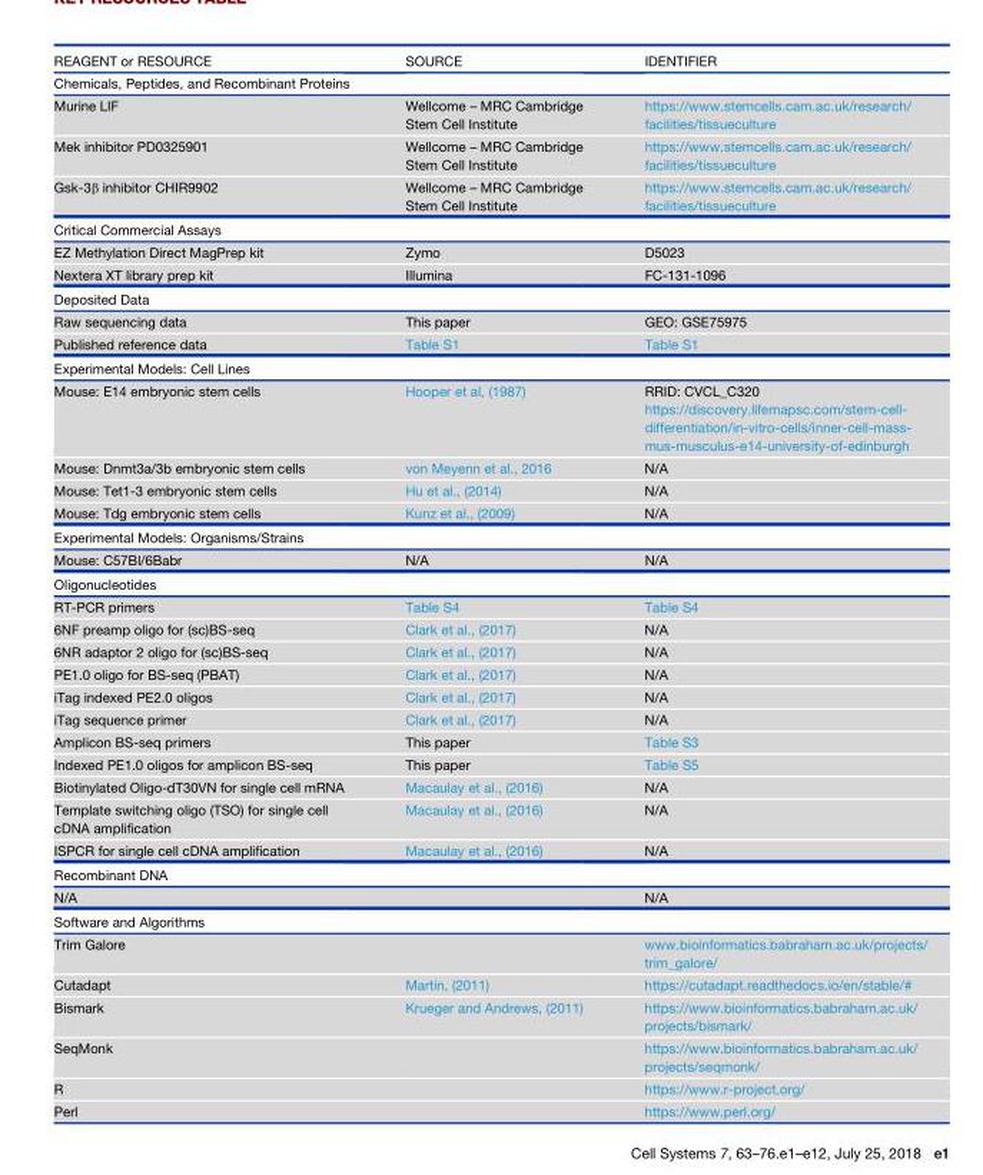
<table><thead><tr><td>REAGENT or RESOURCE</td><td>SOURCE</td><td>IDENTIFIER</td></tr></thead><tbody><tr><td colspan="3">Chemicals, Peptides, and Recombinant Proteins</td></tr><tr><td>Murine LIF</td><td>Wellcome – MRC Cambridge Stem Cell Institute</td><td>https://www.stemcells.cam.ac.uk/research/ facilities/tissueculture</td></tr><tr><td>Mek inhibitor PD0325901</td><td>Wellcome – MRC Cambridge Stem Cell Institute</td><td>https://www.stemcells.cam.ac.uk/research/ facilities/tissueculture</td></tr><tr><td>Gsk-3β inhibitor CHIR9902</td><td>Wellcome – MRC Cambridge Stem Cell Institute</td><td>https://www.stemcells.cam.ac.uk/research/ facilities/tissueculture</td></tr><tr><td colspan="3">Critical Commercial Assays</td></tr><tr><td>EZ Methylation Direct MagPrep kit</td><td>Zymo</td><td>D5023</td></tr><tr><td>Nextera XT library prep kit</td><td>Illumina</td><td>FC-131-1096</td></tr><tr><td colspan="3">Deposited Data</td></tr><tr><td>Raw sequencing data</td><td>This paper</td><td>GEO: GSE75975</td></tr><tr><td>Published reference data</td><td>Table S1</td><td>Table S1</td></tr><tr><td colspan="3">Experimental Models: Cell Lines</td></tr><tr><td>Mouse: E14 embryonic stem cells</td><td>Hooper et al, (1987)</td><td>RRID: CVCL_C320 https://discovery.lifemapsc.com/stem-cell- differentiation/in-vitro-cells/inner-cell-mass- mus-musculus-e14-university-of-edinburgh</td></tr><tr><td>Mouse: Dnmt3a/3b embryonic stem cells</td><td>von Meyenn et al., 2016</td><td>N/A</td></tr><tr><td>Mouse: Tet1-3 embryonic stem cells</td><td>Hu et al., (2014)</td><td>N/A</td></tr><tr><td>Mouse: Tdg embryonic stem cells</td><td>Kunz et al., (2009)</td><td>N/A</td></tr><tr><td colspan="3">Experimental Models: Organisms/Strains</td></tr><tr><td>Mouse: C57Bl/6Babr</td><td>N/A</td><td>N/A</td></tr><tr><td colspan="3">Oligonucleotides</td></tr><tr><td>RT-PCR primers</td><td>Table S4</td><td>Table S4</td></tr><tr><td>6NF preamp oligo for (sc)BS-seq</td><td>Clark et al., (2017)</td><td>N/A</td></tr><tr><td>6NR adaptor 2 oligo for (sc)BS-seq</td><td>Clark et al., (2017)</td><td>N/A</td></tr><tr><td>PE1.0 oligo for BS-seq (PBAT)</td><td>Clark et al., (2017)</td><td>N/A</td></tr><tr><td>iTag indexed PE2.0 oligos</td><td>Clark et al., (2017)</td><td>N/A</td></tr><tr><td>iTag sequence primer</td><td>Clark et al., (2017)</td><td>N/A</td></tr><tr><td>Amplicon BS-seq primers</td><td>This paper</td><td>Table S3</td></tr><tr><td>Indexed PE1.0 oligos for amplicon BS-seq</td><td>This paper</td><td>Table S5</td></tr><tr><td>Biotinylated Oligo-dT30VN for single cell mRNA</td><td>Macaulay et al., (2016)</td><td>N/A</td></tr><tr><td>Template switching oligo (TSO) for single cell cDNA amplification</td><td>Macaulay et al., (2016)</td><td>N/A</td></tr><tr><td>ISPCR for single cell cDNA amplification</td><td>Macaulay et al., (2016)</td><td>N/A</td></tr><tr><td colspan="3">Recombinant DNA</td></tr><tr><td>N/A</td><td></td><td>N/A</td></tr><tr><td colspan="3">Software and Algorithms</td></tr><tr><td>Trim Galore</td><td></td><td>www.bioinformatics.babraham.ac.uk/projects/ trim_galore/</td></tr><tr><td>Cutadapt</td><td>Martin, (2011)</td><td>https://cutadapt.readthedocs.io/en/stable/#</td></tr><tr><td>Bismark</td><td>Krueger and Andrews, (2011)</td><td>https://www.bioinformatics.babraham.ac.uk/ projects/bismark/</td></tr><tr><td>SeqMonk</td><td></td><td>https://www.bioinformatics.babraham.ac.uk/ projects/seqmonk/</td></tr><tr><td>R</td><td></td><td>https://www.r-project.org/</td></tr><tr><td>Perl</td><td></td><td>https://www.perl.org/</td></tr></tbody></table>